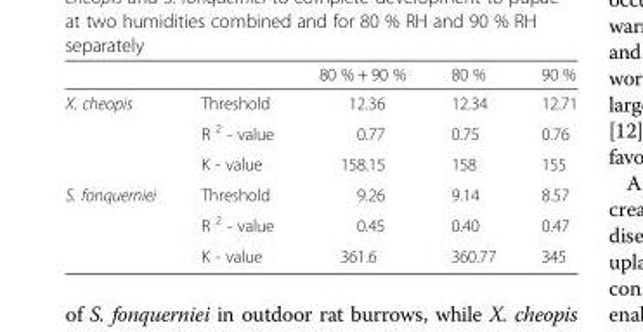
<table><thead><tr><td></td><td></td><td>80 % + 90 %</td><td>80 %</td><td>90 %</td></tr></thead><tbody><tr><td rowspan="3">X. cheopis</td><td>Threshold</td><td>12.36</td><td>12.34</td><td>12.71</td></tr><tr><td>R <sup>2</sup> - value</td><td>0.77</td><td>0.75</td><td>0.76</td></tr><tr><td>K - value</td><td>158.15</td><td>158</td><td>155</td></tr><tr><td rowspan="3">S. fonquerniei</td><td>Threshold</td><td>9.26</td><td>9.14</td><td>8.57</td></tr><tr><td>R <sup>2</sup> - value</td><td>0.45</td><td>0.40</td><td>0.47</td></tr><tr><td>K - value</td><td>361.6</td><td>360.77</td><td>345</td></tr></tbody></table>